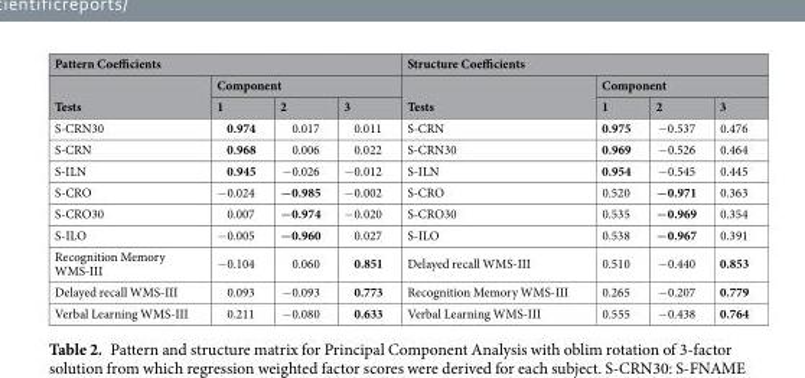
<table><thead><tr><td colspan="4">Pattern Coefficients</td><td colspan="4">Structure Coefficients</td></tr><tr><td rowspan="2">Tests</td><td colspan="3">Component</td><td rowspan="2">Tests</td><td colspan="3">Component</td></tr><tr><td>1</td><td>2</td><td>3</td><td>1</td><td>2</td><td>3</td></tr></thead><tbody><tr><td>S-CRN30</td><td>0.974</td><td>0.017</td><td>0.011</td><td>S-CRN</td><td>0.975</td><td>−0.537</td><td>0.476</td></tr><tr><td>S-CRN</td><td>0.968</td><td>0.006</td><td>0.022</td><td>S-CRN30</td><td>0.969</td><td>−0.526</td><td>0.464</td></tr><tr><td>S-ILN</td><td>0.945</td><td>−0.026</td><td>−0.012</td><td>S-ILN</td><td>0.954</td><td>−0.545</td><td>0.445</td></tr><tr><td>S-CRO</td><td>−0.024</td><td>−0.985</td><td>−0.002</td><td>S-CRO</td><td>0.520</td><td>−0.971</td><td>0.363</td></tr><tr><td>S-CRO30</td><td>0.007</td><td>−0.974</td><td>−0.020</td><td>S-CRO30</td><td>0.535</td><td>−0.969</td><td>0.354</td></tr><tr><td>S-ILO</td><td>−0.005</td><td>−0.960</td><td>0.027</td><td>S-ILO</td><td>0.538</td><td>−0.967</td><td>0.391</td></tr><tr><td>Recognition Memory WMS-III</td><td>−0.104</td><td>0.060</td><td>0.851</td><td>Delayed recall WMS-III</td><td>0.510</td><td>−0.440</td><td>0.853</td></tr><tr><td>Delayed recall WMS-III</td><td>0.093</td><td>−0.093</td><td>0.773</td><td>Recognition Memory WMS-III</td><td>0.265</td><td>−0.207</td><td>0.779</td></tr><tr><td>Verbal Learning WMS-III</td><td>0.211</td><td>−0.080</td><td>0.633</td><td>Verbal Learning WMS-III</td><td>0.555</td><td>−0.438</td><td>0.764</td></tr></tbody></table>